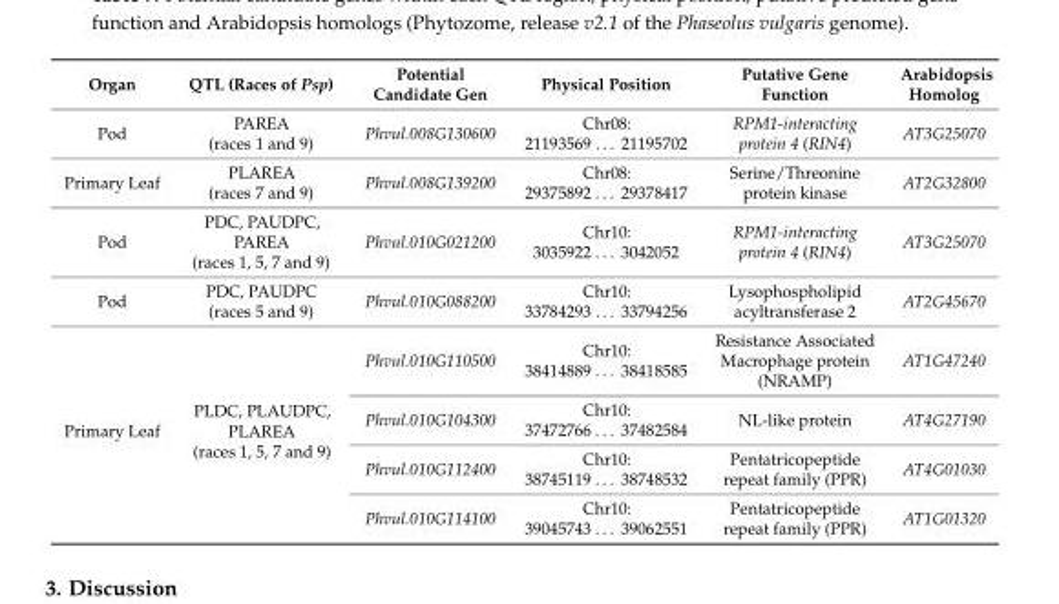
<table><thead><tr><td>Organ</td><td>QTL (Races of Psp)</td><td>Potential Candidate Gen</td><td>Physical Position</td><td>Putative Gene Function</td><td>Arabidopsis Homolog</td></tr></thead><tbody><tr><td>Pod</td><td>PAREA (races 1 and 9)</td><td>Phvul.008G130600</td><td>Chr08: 21193569 . . . 21195702</td><td>RPM1-interacting protein 4 (RIN4)</td><td>AT3G25070</td></tr><tr><td>Primary Leaf</td><td>PLAREA (races 7 and 9)</td><td>Phvul.008G139200</td><td>Chr08: 29375892 . . . 29378417</td><td>Serine/Threonine protein kinase</td><td>AT2G32800</td></tr><tr><td>Pod</td><td>PDC, PAUDPC, PAREA (races 1, 5, 7 and 9)</td><td>Phvul.010G021200</td><td>Chr10: 3035922 . . . 3042052</td><td>RPM1-interacting protein 4 (RIN4)</td><td>AT3G25070</td></tr><tr><td>Pod</td><td>PDC, PAUDPC (races 5 and 9)</td><td>Phvul.010G088200</td><td>Chr10: 33784293 . . . 33794256</td><td>Lysophospholipid acyltransferase 2</td><td>AT2G45670</td></tr><tr><td rowspan="4">Primary Leaf</td><td rowspan="4">PLDC, PLAUDPC, PLAREA (races 1, 5, 7 and 9)</td><td>Phvul.010G110500</td><td>Chr10: 38414889 . . . 38418585</td><td>Resistance Associated Macrophage protein (NRAMP)</td><td>AT1G47240</td></tr><tr><td>Phvul.010G104300</td><td>Chr10: 37472766 . . . 37482584</td><td>NL-like protein</td><td>AT4G27190</td></tr><tr><td>Phvul.010G112400</td><td>Chr10: 38745119 . . . 38748532</td><td>Pentatricopeptide repeat family (PPR)</td><td>AT4G01030</td></tr><tr><td>Phvul.010G114100</td><td>Chr10: 39045743 . . . 39062551</td><td>Pentatricopeptide repeat family (PPR)</td><td>AT1G01320</td></tr></tbody></table>